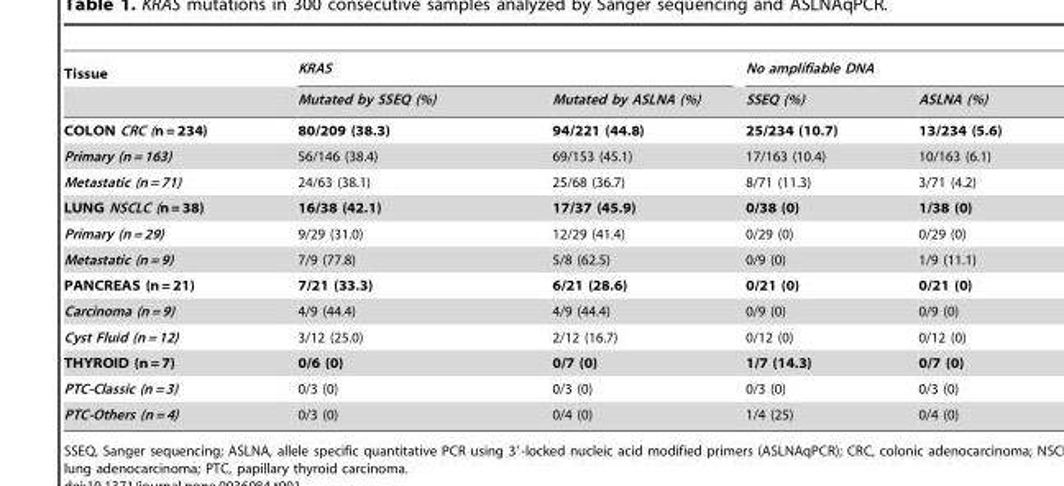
<table><thead><tr><td rowspan="2">Tissue</td><td colspan="2">KRAS</td><td colspan="2">No amplifiable DNA</td></tr><tr><td>Mutated by SSEQ (%)</td><td>Mutated by ASLNA (%)</td><td>SSEQ (%)</td><td>ASLNA (%)</td></tr></thead><tbody><tr><td>COLON CRC (n = 234)</td><td>80/209 (38.3)</td><td>94/221 (44.8)</td><td>25/234 (10.7)</td><td>13/234 (5.6)</td></tr><tr><td>Primary (n = 163)</td><td>56/146 (38.4)</td><td>69/153 (45.1)</td><td>17/163 (10.4)</td><td>10/163 (6.1)</td></tr><tr><td>Metastatic (n = 71)</td><td>24/63 (38.1)</td><td>25/68 (36.7)</td><td>8/71 (11.3)</td><td>3/71 (4.2)</td></tr><tr><td>LUNG NSCLC (n = 38)</td><td>16/38 (42.1)</td><td>17/37 (45.9)</td><td>0/38 (0)</td><td>1/38 (0)</td></tr><tr><td>Primary (n = 29)</td><td>9/29 (31.0)</td><td>12/29 (41.4)</td><td>0/29 (0)</td><td>0/29 (0)</td></tr><tr><td>Metastatic (n = 9)</td><td>7/9 (77.8)</td><td>5/8 (62.5)</td><td>0/9 (0)</td><td>1/9 (11.1)</td></tr><tr><td>PANCREAS (n = 21)</td><td>7/21 (33.3)</td><td>6/21 (28.6)</td><td>0/21 (0)</td><td>0/21 (0)</td></tr><tr><td>Carcinoma (n = 9)</td><td>4/9 (44.4)</td><td>4/9 (44.4)</td><td>0/9 (0)</td><td>0/9 (0)</td></tr><tr><td>Cyst Fluid (n = 12)</td><td>3/12 (25.0)</td><td>2/12 (16.7)</td><td>0/12 (0)</td><td>0/12 (0)</td></tr><tr><td>THYROID (n = 7)</td><td>0/6 (0)</td><td>0/7 (0)</td><td>1/7 (14.3)</td><td>0/7 (0)</td></tr><tr><td>PTC-Classic (n = 3)</td><td>0/3 (0)</td><td>0/3 (0)</td><td>0/3 (0)</td><td>0/3 (0)</td></tr><tr><td>PTC-Others (n = 4)</td><td>0/3 (0)</td><td>0/4 (0)</td><td>1/4 (25)</td><td>0/4 (0)</td></tr></tbody></table>